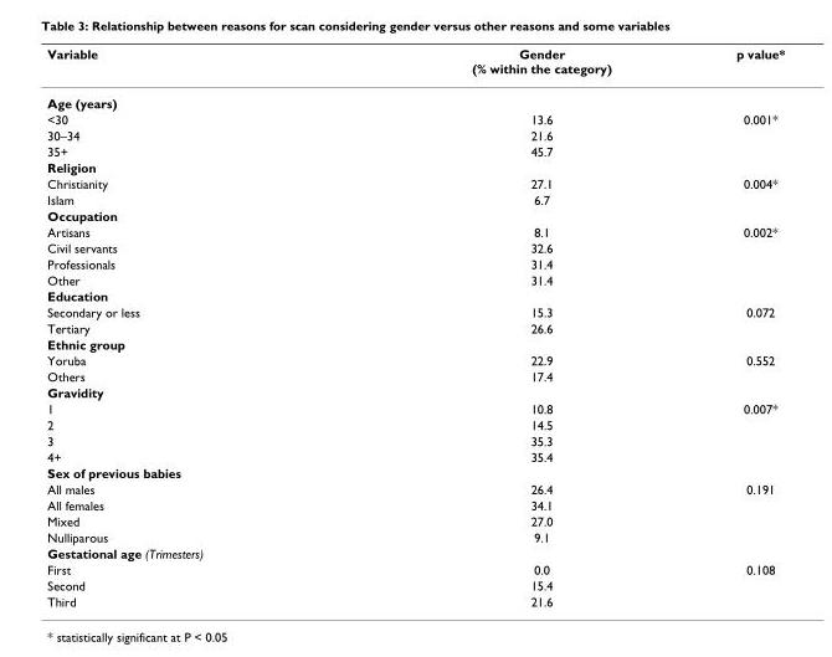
<table><thead><tr><td>Variable</td><td>Gender (% within the category)</td><td>p value*</td></tr></thead><tbody><tr><td colspan="3">Age (years)</td></tr><tr><td>&lt;30</td><td>13.6</td><td>0.001*</td></tr><tr><td>30–34</td><td>21.6</td><td></td></tr><tr><td>35+</td><td>45.7</td><td></td></tr><tr><td colspan="3">Religion</td></tr><tr><td>Christianity</td><td>27.1</td><td>0.004*</td></tr><tr><td>Islam</td><td>6.7</td><td></td></tr><tr><td colspan="3">Occupation</td></tr><tr><td>Artisans</td><td>8.1</td><td>0.002*</td></tr><tr><td>Civil servants</td><td>32.6</td><td></td></tr><tr><td>Professionals</td><td>31.4</td><td></td></tr><tr><td>Other</td><td>31.4</td><td></td></tr><tr><td colspan="3">Education</td></tr><tr><td>Secondary or less</td><td>15.3</td><td>0.072</td></tr><tr><td>Tertiary</td><td>26.6</td><td></td></tr><tr><td colspan="3">Ethnic group</td></tr><tr><td>Yoruba</td><td>22.9</td><td>0.552</td></tr><tr><td>Others</td><td>17.4</td><td></td></tr><tr><td colspan="3">Gravidity</td></tr><tr><td>1</td><td>10.8</td><td>0.007*</td></tr><tr><td>2</td><td>14.5</td><td></td></tr><tr><td>3</td><td>35.3</td><td></td></tr><tr><td>4+</td><td>35.4</td><td></td></tr><tr><td colspan="3">Sex of previous babies</td></tr><tr><td>All males</td><td>26.4</td><td>0.191</td></tr><tr><td>All females</td><td>34.1</td><td></td></tr><tr><td>Mixed</td><td>27.0</td><td></td></tr><tr><td>Nulliparous</td><td>9.1</td><td></td></tr><tr><td colspan="3">Gestational age (Trimesters)</td></tr><tr><td>First</td><td>0.0</td><td>0.108</td></tr><tr><td>Second</td><td>15.4</td><td></td></tr><tr><td>Third</td><td>21.6</td><td></td></tr></tbody></table>